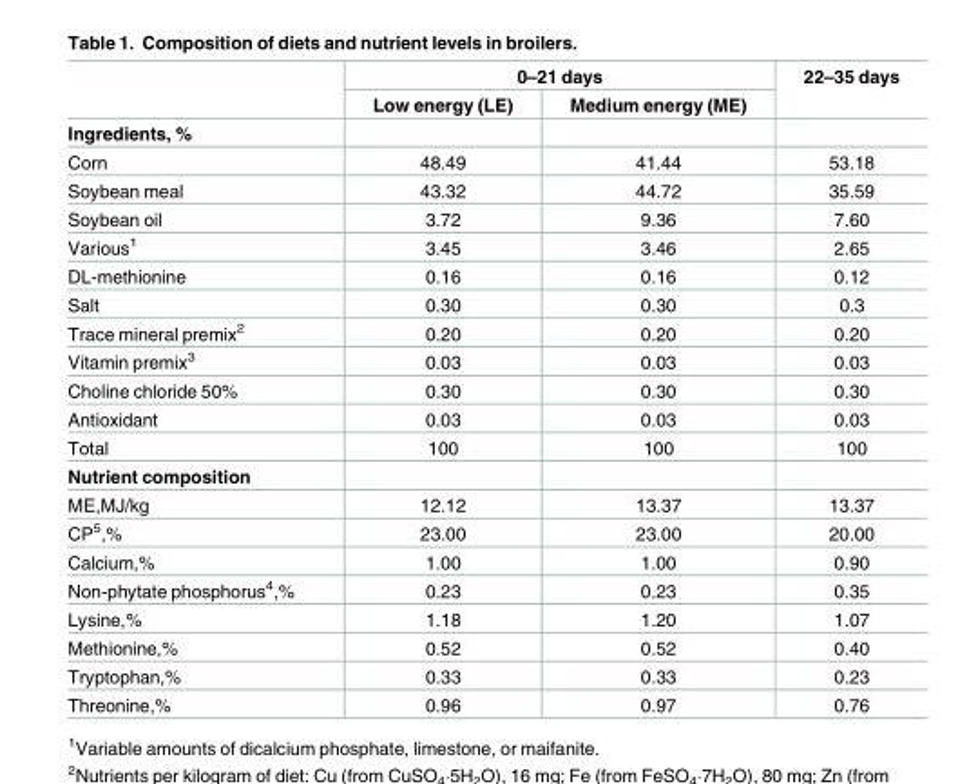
<table><thead><tr><td rowspan="2"></td><td colspan="2">0–21 days</td><td rowspan="2">22–35 days</td></tr><tr><td>Low energy (LE)</td><td>Medium energy (ME)</td></tr></thead><tbody><tr><td colspan="4">Ingredients, %</td></tr><tr><td>Corn</td><td>48.49</td><td>41.44</td><td>53.18</td></tr><tr><td>Soybean meal</td><td>43.32</td><td>44.72</td><td>35.59</td></tr><tr><td>Soybean oil</td><td>3.72</td><td>9.36</td><td>7.60</td></tr><tr><td>Various<sup>1</sup></td><td>3.45</td><td>3.46</td><td>2.65</td></tr><tr><td>DL-methionine</td><td>0.16</td><td>0.16</td><td>0.12</td></tr><tr><td>Salt</td><td>0.30</td><td>0.30</td><td>0.3</td></tr><tr><td>Trace mineral premix<sup>2</sup></td><td>0.20</td><td>0.20</td><td>0.20</td></tr><tr><td>Vitamin premix<sup>3</sup></td><td>0.03</td><td>0.03</td><td>0.03</td></tr><tr><td>Choline chloride 50%</td><td>0.30</td><td>0.30</td><td>0.30</td></tr><tr><td>Antioxidant</td><td>0.03</td><td>0.03</td><td>0.03</td></tr><tr><td>Total</td><td>100</td><td>100</td><td>100</td></tr><tr><td colspan="4">Nutrient composition</td></tr><tr><td>ME,MJ/kg</td><td>12.12</td><td>13.37</td><td>13.37</td></tr><tr><td>CP<sup>5</sup>,%</td><td>23.00</td><td>23.00</td><td>20.00</td></tr><tr><td>Calcium,%</td><td>1.00</td><td>1.00</td><td>0.90</td></tr><tr><td>Non-phytate phosphorus<sup>4</sup>,%</td><td>0.23</td><td>0.23</td><td>0.35</td></tr><tr><td>Lysine,%</td><td>1.18</td><td>1.20</td><td>1.07</td></tr><tr><td>Methionine,%</td><td>0.52</td><td>0.52</td><td>0.40</td></tr><tr><td>Tryptophan,%</td><td>0.33</td><td>0.33</td><td>0.23</td></tr><tr><td>Threonine,%</td><td>0.96</td><td>0.97</td><td>0.76</td></tr></tbody></table>